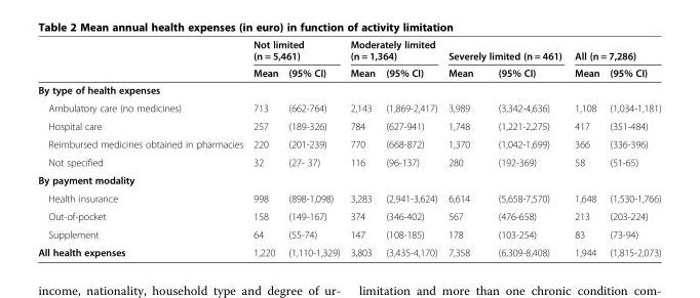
<table><thead><tr><td rowspan="2"></td><td colspan="2">Not limited (n = 5,461)</td><td colspan="2">Moderately limited (n = 1,364)</td><td colspan="2">Severely limited (n = 461)</td><td colspan="2">All (n = 7,286)</td></tr><tr><td>Mean</td><td>(95% CI)</td><td>Mean</td><td>(95% CI)</td><td>Mean</td><td>(95% CI)</td><td>Mean</td><td>(95% CI)</td></tr></thead><tbody><tr><td colspan="9">By type of health expenses</td></tr><tr><td>Ambulatory care (no medicines)</td><td>713</td><td>(662-764)</td><td>2,143</td><td>(1,869-2,417)</td><td>3,989</td><td>(3,342-4,636)</td><td>1,108</td><td>(1,034-1,181)</td></tr><tr><td>Hospital care</td><td>257</td><td>(189-326)</td><td>784</td><td>(627-941)</td><td>1,748</td><td>(1,221-2,275)</td><td>417</td><td>(351-484)</td></tr><tr><td>Reimbursed medicines obtained in pharmacies</td><td>220</td><td>(201-239)</td><td>770</td><td>(668-872)</td><td>1,370</td><td>(1,042-1,699)</td><td>366</td><td>(336-396)</td></tr><tr><td>Not specified</td><td>32</td><td>(27- 37)</td><td>116</td><td>(96-137)</td><td>280</td><td>(192-369)</td><td>58</td><td>(51-65)</td></tr><tr><td colspan="9">By payment modality</td></tr><tr><td>Health insurance</td><td>998</td><td>(898-1,098)</td><td>3,283</td><td>(2,941-3,624)</td><td>6,614</td><td>(5,658-7,570)</td><td>1,648</td><td>(1,530-1,766)</td></tr><tr><td>Out-of-pocket</td><td>158</td><td>(149-167)</td><td>374</td><td>(346-402)</td><td>567</td><td>(476-658)</td><td>213</td><td>(203-224)</td></tr><tr><td>Supplement</td><td>64</td><td>(55-74)</td><td>147</td><td>(108-185)</td><td>178</td><td>(103-254)</td><td>83</td><td>(73-94)</td></tr><tr><td>All health expenses</td><td>1,220</td><td>(1,110-1,329)</td><td>3,803</td><td>(3,435-4,170)</td><td>7,358</td><td>(6,309-8,408)</td><td>1,944</td><td>(1,815-2,073)</td></tr></tbody></table>